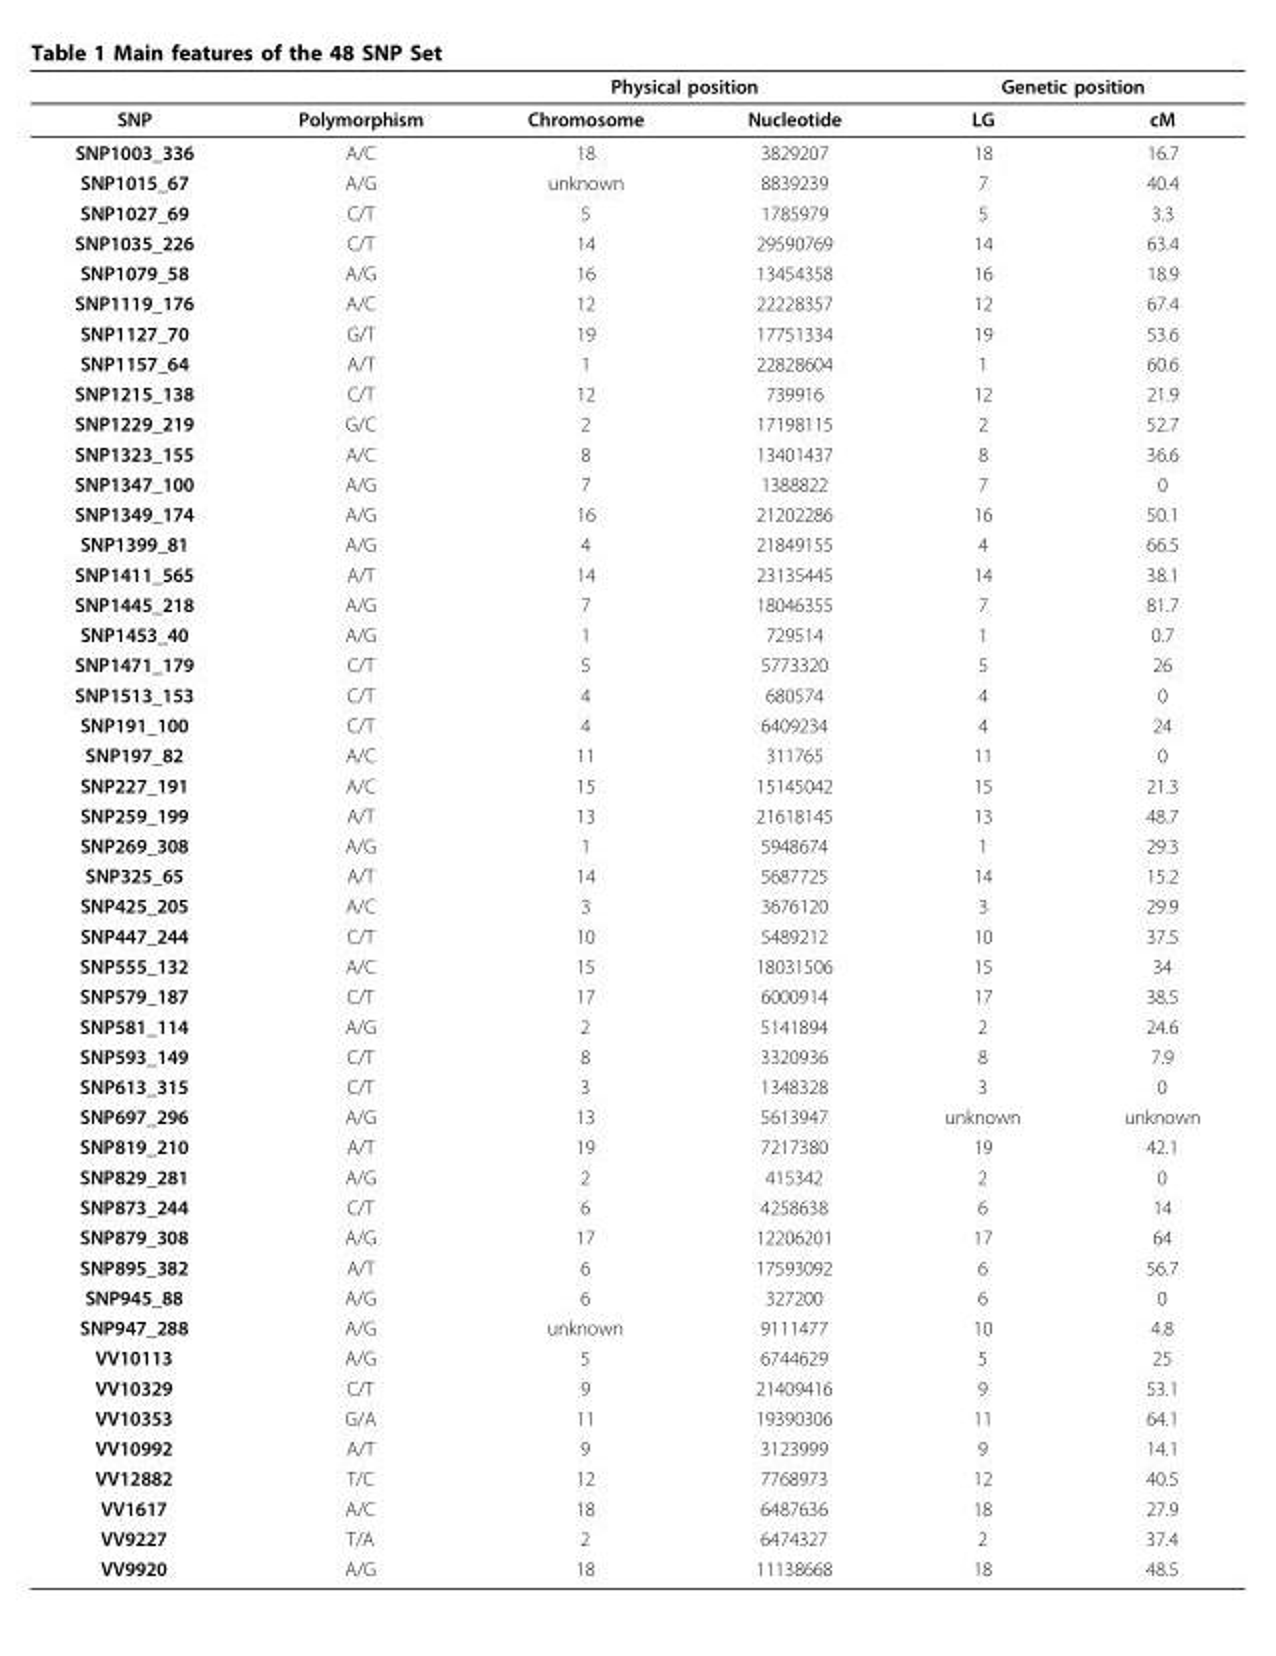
<table><thead><tr><td rowspan="2">SNP</td><td rowspan="2">Polymorphism</td><td colspan="2">Physical position</td><td colspan="2">Genetic position</td></tr><tr><td>Chromosome</td><td>Nucleotide</td><td>LG</td><td>cM</td></tr></thead><tbody><tr><td>SNP1003_336</td><td>A/C</td><td>18</td><td>3829207</td><td>18</td><td>16.7</td></tr><tr><td>SNP1015_67</td><td>A/G</td><td>unknown</td><td>8839239</td><td>7</td><td>40.4</td></tr><tr><td>SNP1027_69</td><td>C/T</td><td>5</td><td>1785979</td><td>5</td><td>3.3</td></tr><tr><td>SNP1035_226</td><td>C/T</td><td>14</td><td>29590769</td><td>14</td><td>63.4</td></tr><tr><td>SNP1079_58</td><td>A/G</td><td>16</td><td>13454358</td><td>16</td><td>18.9</td></tr><tr><td>SNP1119_176</td><td>A/C</td><td>12</td><td>22228357</td><td>12</td><td>67.4</td></tr><tr><td>SNP1127_70</td><td>G/T</td><td>19</td><td>17751334</td><td>19</td><td>53.6</td></tr><tr><td>SNP1157_64</td><td>A/T</td><td>1</td><td>22828604</td><td>1</td><td>60.6</td></tr><tr><td>SNP1215_138</td><td>C/T</td><td>12</td><td>739916</td><td>12</td><td>21.9</td></tr><tr><td>SNP1229_219</td><td>G/C</td><td>2</td><td>17198115</td><td>2</td><td>52.7</td></tr><tr><td>SNP1323_155</td><td>A/C</td><td>8</td><td>13401437</td><td>8</td><td>36.6</td></tr><tr><td>SNP1347_100</td><td>A/G</td><td>7</td><td>1388822</td><td>7</td><td>0</td></tr><tr><td>SNP1349_174</td><td>A/G</td><td>16</td><td>21202286</td><td>16</td><td>50.1</td></tr><tr><td>SNP1399_81</td><td>A/G</td><td>4</td><td>21849155</td><td>4</td><td>66.5</td></tr><tr><td>SNP1411_565</td><td>A/T</td><td>14</td><td>23135445</td><td>14</td><td>38.1</td></tr><tr><td>SNP1445_218</td><td>A/G</td><td>7</td><td>18046355</td><td>7</td><td>81.7</td></tr><tr><td>SNP1453_40</td><td>A/G</td><td>1</td><td>729514</td><td>1</td><td>0.7</td></tr><tr><td>SNP1471_179</td><td>C/T</td><td>5</td><td>5773320</td><td>5</td><td>26</td></tr><tr><td>SNP1513_153</td><td>C/T</td><td>4</td><td>680574</td><td>4</td><td>0</td></tr><tr><td>SNP191_100</td><td>C/T</td><td>4</td><td>6409234</td><td>4</td><td>24</td></tr><tr><td>SNP197_82</td><td>A/C</td><td>11</td><td>311765</td><td>11</td><td>0</td></tr><tr><td>SNP227_191</td><td>A/C</td><td>15</td><td>15145042</td><td>15</td><td>21.3</td></tr><tr><td>SNP259_199</td><td>A/T</td><td>13</td><td>21618145</td><td>13</td><td>48.7</td></tr><tr><td>SNP269_308</td><td>A/G</td><td>1</td><td>5948674</td><td>1</td><td>29.3</td></tr><tr><td>SNP325_65</td><td>A/T</td><td>14</td><td>5687725</td><td>14</td><td>15.2</td></tr><tr><td>SNP425_205</td><td>A/C</td><td>3</td><td>3676120</td><td>3</td><td>29.9</td></tr><tr><td>SNP447_244</td><td>C/T</td><td>10</td><td>5489212</td><td>10</td><td>37.5</td></tr><tr><td>SNP555_132</td><td>A/C</td><td>15</td><td>18031506</td><td>15</td><td>34</td></tr><tr><td>SNP579_187</td><td>C/T</td><td>17</td><td>6000914</td><td>17</td><td>38.5</td></tr><tr><td>SNP581_114</td><td>A/G</td><td>2</td><td>5141894</td><td>2</td><td>24.6</td></tr><tr><td>SNP593_149</td><td>C/T</td><td>8</td><td>3320936</td><td>8</td><td>7.9</td></tr><tr><td>SNP613_315</td><td>C/T</td><td>3</td><td>1348328</td><td>3</td><td>0</td></tr><tr><td>SNP697_296</td><td>A/G</td><td>13</td><td>5613947</td><td>unknown</td><td>unknown</td></tr><tr><td>SNP819_210</td><td>A/T</td><td>19</td><td>7217380</td><td>19</td><td>42.1</td></tr><tr><td>SNP829_281</td><td>A/G</td><td>2</td><td>415342</td><td>2</td><td>0</td></tr><tr><td>SNP873_244</td><td>C/T</td><td>6</td><td>4258638</td><td>6</td><td>14</td></tr><tr><td>SNP879_308</td><td>A/G</td><td>17</td><td>12206201</td><td>17</td><td>64</td></tr><tr><td>SNP895_382</td><td>A/T</td><td>6</td><td>17593092</td><td>6</td><td>56.7</td></tr><tr><td>SNP945_88</td><td>A/G</td><td>6</td><td>327200</td><td>6</td><td>0</td></tr><tr><td>SNP947_288</td><td>A/G</td><td>unknown</td><td>9111477</td><td>10</td><td>4.8</td></tr><tr><td>VV10113</td><td>A/G</td><td>5</td><td>6744629</td><td>5</td><td>25</td></tr><tr><td>VV10329</td><td>C/T</td><td>9</td><td>21409416</td><td>9</td><td>53.1</td></tr><tr><td>VV10353</td><td>G/A</td><td>11</td><td>19390306</td><td>11</td><td>64.1</td></tr><tr><td>VV10992</td><td>A/T</td><td>9</td><td>3123999</td><td>9</td><td>14.1</td></tr><tr><td>VV12882</td><td>T/C</td><td>12</td><td>7768973</td><td>12</td><td>40.5</td></tr><tr><td>VV1617</td><td>A/C</td><td>18</td><td>6487636</td><td>18</td><td>27.9</td></tr><tr><td>VV9227</td><td>T/A</td><td>2</td><td>6474327</td><td>2</td><td>37.4</td></tr><tr><td>VV9920</td><td>A/G</td><td>18</td><td>11138668</td><td>18</td><td>48.5</td></tr></tbody></table>